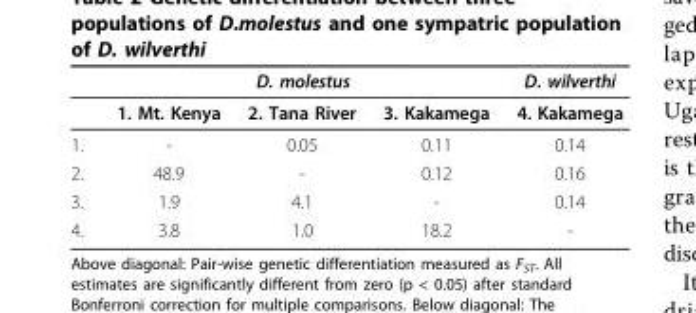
<table><thead><tr><td rowspan="2"></td><td colspan="3">D. molestus</td><td rowspan="2">D. wilverthi 4. Kakamega</td></tr><tr><td>1. Mt. Kenya</td><td>2. Tana River</td><td>3. Kakamega</td></tr></thead><tbody><tr><td>1.</td><td>-</td><td>0.05</td><td>0.11</td><td>0.14</td></tr><tr><td>2.</td><td>48.9</td><td>-</td><td>0.12</td><td>0.16</td></tr><tr><td>3.</td><td>1.9</td><td>4.1</td><td>-</td><td>0.14</td></tr><tr><td>4.</td><td>3.8</td><td>1.0</td><td>18.2</td><td>-</td></tr></tbody></table>